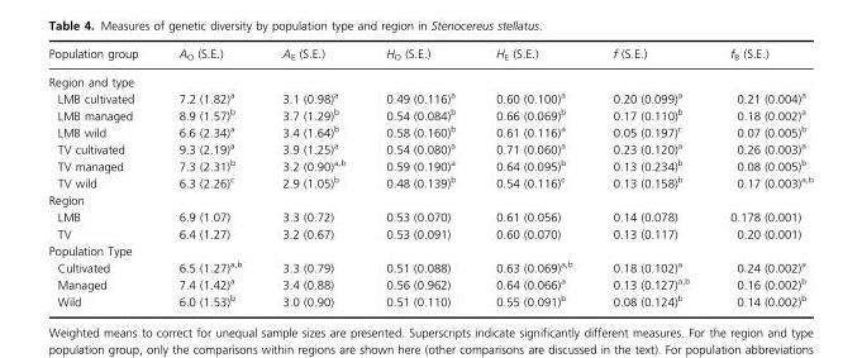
<table><thead><tr><td>Population group</td><td>A<sub>O</sub> (S.E.)</td><td>A<sub>E</sub> (S.E.)</td><td>H<sub>O</sub> (S.E.)</td><td>H<sub>E</sub> (S.E.)</td><td>f (S.E.)</td><td>f<sub>B</sub> (S.E.)</td></tr></thead><tbody><tr><td colspan="7">Region and type</td></tr><tr><td>LMB cultivated</td><td>7.2 (1.82)<sup>a</sup></td><td>3.1 (0.98)<sup>a</sup></td><td>0.49 (0.116)<sup>a</sup></td><td>0.60 (0.100)<sup>a</sup></td><td>0.20 (0.099)<sup>a</sup></td><td>0.21 (0.004)<sup>a</sup></td></tr><tr><td>LMB managed</td><td>8.9 (1.57)<sup>b</sup></td><td>3.7 (1.29)<sup>b</sup></td><td>0.54 (0.084)<sup>b</sup></td><td>0.66 (0.069)<sup>b</sup></td><td>0.17 (0.110)<sup>b</sup></td><td>0.18 (0.002)<sup>a</sup></td></tr><tr><td>LMB wild</td><td>6.6 (2.34)<sup>a</sup></td><td>3.4 (1.64)<sup>b</sup></td><td>0.58 (0.160)<sup>b</sup></td><td>0.61 (0.116)<sup>a</sup></td><td>0.05 (0.197)<sup>c</sup></td><td>0.07 (0.005)<sup>b</sup></td></tr><tr><td>TV cultivated</td><td>9.3 (2.19)<sup>a</sup></td><td>3.9 (1.25)<sup>a</sup></td><td>0.54 (0.080)<sup>a</sup></td><td>0.71 (0.060)<sup>a</sup></td><td>0.23 (0.120)<sup>a</sup></td><td>0.26 (0.003)<sup>a</sup></td></tr><tr><td>TV managed</td><td>7.3 (2.31)<sup>b</sup></td><td>3.2 (0.90)<sup>a,b</sup></td><td>0.59 (0.190)<sup>a</sup></td><td>0.64 (0.095)<sup>b</sup></td><td>0.13 (0.234)<sup>b</sup></td><td>0.08 (0.005)<sup>b</sup></td></tr><tr><td>TV wild</td><td>6.3 (2.26)<sup>c</sup></td><td>2.9 (1.05)<sup>b</sup></td><td>0.48 (0.139)<sup>b</sup></td><td>0.54 (0.116)<sup>c</sup></td><td>0.13 (0.158)<sup>b</sup></td><td>0.17 (0.003)<sup>a,b</sup></td></tr><tr><td colspan="7">Region</td></tr><tr><td>LMB</td><td>6.9 (1.07)</td><td>3.3 (0.72)</td><td>0.53 (0.070)</td><td>0.61 (0.056)</td><td>0.14 (0.078)</td><td>0.178 (0.001)</td></tr><tr><td>TV</td><td>6.4 (1.27)</td><td>3.2 (0.67)</td><td>0.53 (0.091)</td><td>0.60 (0.070)</td><td>0.13 (0.117)</td><td>0.20 (0.001)</td></tr><tr><td colspan="7">Population Type</td></tr><tr><td>Cultivated</td><td>6.5 (1.27)<sup>a,b</sup></td><td>3.3 (0.79)</td><td>0.51 (0.088)</td><td>0.63 (0.069)<sup>a,b</sup></td><td>0.18 (0.102)<sup>a</sup></td><td>0.24 (0.002)<sup>a</sup></td></tr><tr><td>Managed</td><td>7.4 (1.42)<sup>a</sup></td><td>3.4 (0.88)</td><td>0.56 (0.962)</td><td>0.64 (0.066)<sup>a</sup></td><td>0.13 (0.127)<sup>a,b</sup></td><td>0.16 (0.002)<sup>b</sup></td></tr><tr><td>Wild</td><td>6.0 (1.53)<sup>b</sup></td><td>3.0 (0.90)</td><td>0.51 (0.110)</td><td>0.55 (0.091)<sup>b</sup></td><td>0.08 (0.124)<sup>b</sup></td><td>0.14 (0.002)<sup>b</sup></td></tr></tbody></table>